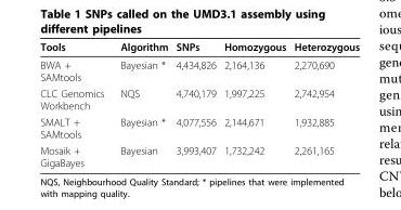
<table><thead><tr><td>Tools</td><td>Algorithm</td><td>SNPs</td><td>Homozygous</td><td>Heterozygous</td></tr></thead><tbody><tr><td>BWA + SAMtools</td><td>Bayesian *</td><td>4,434,826</td><td>2,164,136</td><td>2,270,690</td></tr><tr><td>CLC Genomics Workbench</td><td>NQS</td><td>4,740,179</td><td>1,997,225</td><td>2,742,954</td></tr><tr><td>SMALT + SAMtools</td><td>Bayesian *</td><td>4,077,556</td><td>2,144,671</td><td>1,932,885</td></tr><tr><td>Mosaik + GigaBayes</td><td>Bayesian</td><td>3,993,407</td><td>1,732,242</td><td>2,261,165</td></tr></tbody></table>